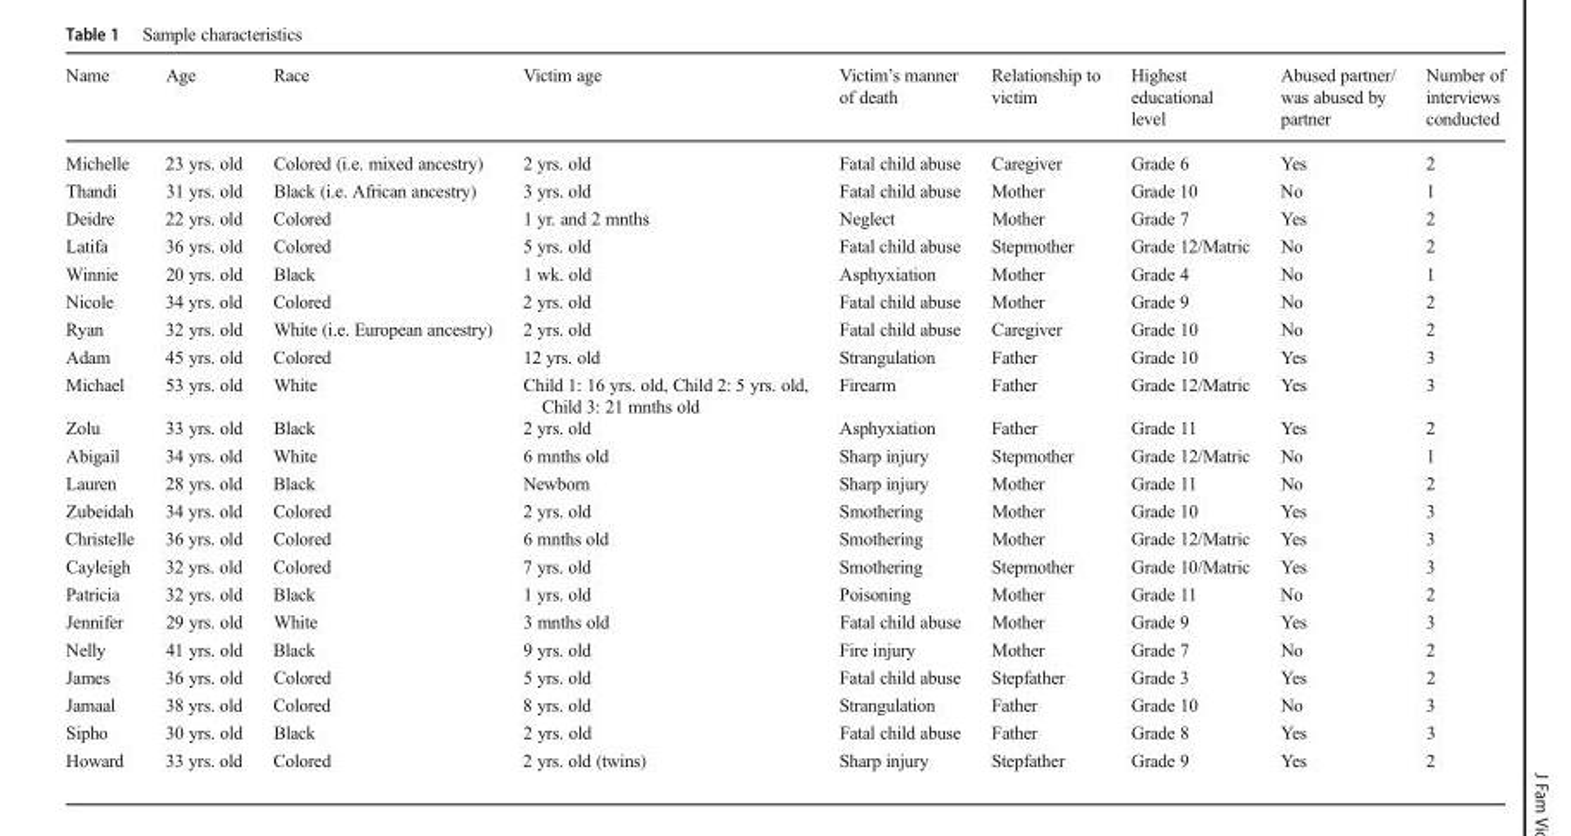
<table><thead><tr><td>Name</td><td>Age</td><td>Race</td><td>Victim age</td><td>Victim’s manner of death</td><td>Relationship to victim</td><td>Highest educational level</td><td>Abused partner/ was abused by partner</td><td>Number of interviews conducted</td></tr></thead><tbody><tr><td>Michelle</td><td>23 yrs. old</td><td>Colored (i.e. mixed ancestry)</td><td>2 yrs. old</td><td>Fatal child abuse</td><td>Caregiver</td><td>Grade 6</td><td>Yes</td><td>2</td></tr><tr><td>Thandi</td><td>31 yrs. old</td><td>Black (i.e. African ancestry)</td><td>3 yrs. old</td><td>Fatal child abuse</td><td>Mother</td><td>Grade 10</td><td>No</td><td>1</td></tr><tr><td>Deidre</td><td>22 yrs. old</td><td>Colored</td><td>1 yr. and 2 mnths</td><td>Neglect</td><td>Mother</td><td>Grade 7</td><td>Yes</td><td>2</td></tr><tr><td>Latifa</td><td>36 yrs. old</td><td>Colored</td><td>5 yrs. old</td><td>Fatal child abuse</td><td>Stepmother</td><td>Grade 12/Matric</td><td>No</td><td>2</td></tr><tr><td>Winnie</td><td>20 yrs. old</td><td>Black</td><td>1 wk. old</td><td>Asphyxiation</td><td>Mother</td><td>Grade 4</td><td>No</td><td>1</td></tr><tr><td>Nicole</td><td>34 yrs. old</td><td>Colored</td><td>2 yrs. old</td><td>Fatal child abuse</td><td>Mother</td><td>Grade 9</td><td>No</td><td>2</td></tr><tr><td>Ryan</td><td>32 yrs. old</td><td>White (i.e. European ancestry)</td><td>2 yrs. old</td><td>Fatal child abuse</td><td>Caregiver</td><td>Grade 10</td><td>No</td><td>2</td></tr><tr><td>Adam</td><td>45 yrs. old</td><td>Colored</td><td>12 yrs. old</td><td>Strangulation</td><td>Father</td><td>Grade 10</td><td>Yes</td><td>3</td></tr><tr><td>Michael</td><td>53 yrs. old</td><td>White</td><td>Child 1: 16 yrs. old, Child 2: 5 yrs. old, Child 3: 21 mnths old</td><td>Firearm</td><td>Father</td><td>Grade 12/Matric</td><td>Yes</td><td>3</td></tr><tr><td>Zolu</td><td>33 yrs. old</td><td>Black</td><td>2 yrs. old</td><td>Asphyxiation</td><td>Father</td><td>Grade 11</td><td>Yes</td><td>2</td></tr><tr><td>Abigail</td><td>34 yrs. old</td><td>White</td><td>6 mnths old</td><td>Sharp injury</td><td>Stepmother</td><td>Grade 12/Matric</td><td>No</td><td>1</td></tr><tr><td>Lauren</td><td>28 yrs. old</td><td>Black</td><td>Newborn</td><td>Sharp injury</td><td>Mother</td><td>Grade 11</td><td>No</td><td>2</td></tr><tr><td>Zubeidah</td><td>34 yrs. old</td><td>Colored</td><td>2 yrs. old</td><td>Smothering</td><td>Mother</td><td>Grade 10</td><td>Yes</td><td>3</td></tr><tr><td>Christelle</td><td>36 yrs. old</td><td>Colored</td><td>6 mnths old</td><td>Smothering</td><td>Mother</td><td>Grade 12/Matric</td><td>Yes</td><td>3</td></tr><tr><td>Cayleigh</td><td>32 yrs. old</td><td>Colored</td><td>7 yrs. old</td><td>Smothering</td><td>Stepmother</td><td>Grade 10/Matric</td><td>Yes</td><td>3</td></tr><tr><td>Patricia</td><td>32 yrs. old</td><td>Black</td><td>1 yrs. old</td><td>Poisoning</td><td>Mother</td><td>Grade 11</td><td>No</td><td>2</td></tr><tr><td>Jennifer</td><td>29 yrs. old</td><td>White</td><td>3 mnths old</td><td>Fatal child abuse</td><td>Mother</td><td>Grade 9</td><td>Yes</td><td>3</td></tr><tr><td>Nelly</td><td>41 yrs. old</td><td>Black</td><td>9 yrs. old</td><td>Fire injury</td><td>Mother</td><td>Grade 7</td><td>No</td><td>2</td></tr><tr><td>James</td><td>36 yrs. old</td><td>Colored</td><td>5 yrs. old</td><td>Fatal child abuse</td><td>Stepfather</td><td>Grade 3</td><td>Yes</td><td>2</td></tr><tr><td>Jamaal</td><td>38 yrs. old</td><td>Colored</td><td>8 yrs. old</td><td>Strangulation</td><td>Father</td><td>Grade 10</td><td>No</td><td>3</td></tr><tr><td>Sipho</td><td>30 yrs. old</td><td>Black</td><td>2 yrs. old</td><td>Fatal child abuse</td><td>Father</td><td>Grade 8</td><td>Yes</td><td>3</td></tr><tr><td>Howard</td><td>33 yrs. old</td><td>Colored</td><td>2 yrs. old (twins)</td><td>Sharp injury</td><td>Stepfather</td><td>Grade 9</td><td>Yes</td><td>2</td></tr></tbody></table>